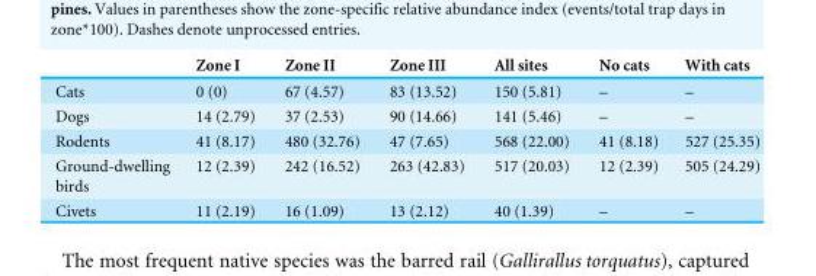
<table><thead><tr><td></td><td>Zone I</td><td>Zone II</td><td>Zone III</td><td>All sites</td><td>No cats</td><td>With cats</td></tr></thead><tbody><tr><td>Cats</td><td>0 (0)</td><td>67 (4.57)</td><td>83 (13.52)</td><td>150 (5.81)</td><td>–</td><td>–</td></tr><tr><td>Dogs</td><td>14 (2.79)</td><td>37 (2.53)</td><td>90 (14.66)</td><td>141 (5.46)</td><td>–</td><td>–</td></tr><tr><td>Rodents</td><td>41 (8.17)</td><td>480 (32.76)</td><td>47 (7.65)</td><td>568 (22.00)</td><td>41 (8.18)</td><td>527 (25.35)</td></tr><tr><td>Ground-dwelling birds</td><td>12 (2.39)</td><td>242 (16.52)</td><td>263 (42.83)</td><td>517 (20.03)</td><td>12 (2.39)</td><td>505 (24.29)</td></tr><tr><td>Civets</td><td>11 (2.19)</td><td>16 (1.09)</td><td>13 (2.12)</td><td>40 (1.39)</td><td>–</td><td>–</td></tr></tbody></table>